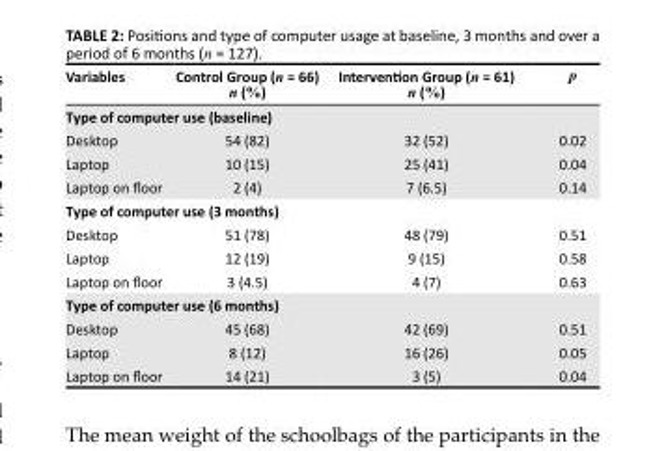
<table><thead><tr><td>Variables</td><td>Control Group (n = 66) n (%)</td><td>Intervention Group (n = 61) n (%)</td><td>p</td></tr></thead><tbody><tr><td colspan="4">Type of computer use (baseline)</td></tr><tr><td>Desktop</td><td>54 (82)</td><td>32 (52)</td><td>0.02</td></tr><tr><td>Laptop</td><td>10 (15)</td><td>25 (41)</td><td>0.04</td></tr><tr><td>Laptop on floor</td><td>2 (4)</td><td>7 (6.5)</td><td>0.14</td></tr><tr><td colspan="4">Type of computer use (3 months)</td></tr><tr><td>Desktop</td><td>51 (78)</td><td>48 (79)</td><td>0.51</td></tr><tr><td>Laptop</td><td>12 (19)</td><td>9 (15)</td><td>0.58</td></tr><tr><td>Laptop on floor</td><td>3 (4.5)</td><td>4 (7)</td><td>0.63</td></tr><tr><td colspan="4">Type of computer use (6 months)</td></tr><tr><td>Desktop</td><td>45 (68)</td><td>42 (69)</td><td>0.51</td></tr><tr><td>Laptop</td><td>8 (12)</td><td>16 (26)</td><td>0.05</td></tr><tr><td>Laptop on floor</td><td>14 (21)</td><td>3 (5)</td><td>0.04</td></tr></tbody></table>